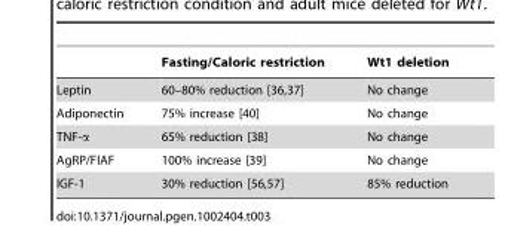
<table><thead><tr><td></td><td>Fasting/Caloric restriction</td><td>Wt1 deletion</td></tr></thead><tbody><tr><td>Leptin</td><td>60–80% reduction [36,37]</td><td>No change</td></tr><tr><td>Adiponectin</td><td>75% increase [40]</td><td>No change</td></tr><tr><td>TNF-α</td><td>65% reduction [38]</td><td>No change</td></tr><tr><td>AgRP/FIAF</td><td>100% increase [39]</td><td>No change</td></tr><tr><td>IGF-1</td><td>30% reduction [56,57]</td><td>85% reduction</td></tr></tbody></table>